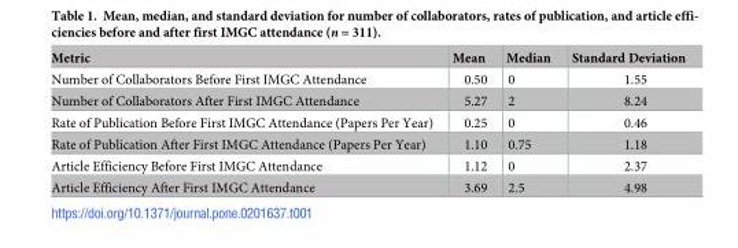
<table><thead><tr><td>Metric</td><td>Mean</td><td>Median</td><td>Standard Deviation</td></tr></thead><tbody><tr><td>Number of Collaborators Before First IMGC Attendance</td><td>0.50</td><td>0</td><td>1.55</td></tr><tr><td>Number of Collaborators After First IMGC Attendance</td><td>5.27</td><td>2</td><td>8.24</td></tr><tr><td>Rate of Publication Before First IMGC Attendance (Papers Per Year)</td><td>0.25</td><td>0</td><td>0.46</td></tr><tr><td>Rate of Publication After First IMGC Attendance (Papers Per Year)</td><td>1.10</td><td>0.75</td><td>1.18</td></tr><tr><td>Article Efficiency Before First IMGC Attendance</td><td>1.12</td><td>0</td><td>2.37</td></tr><tr><td>Article Efficiency After First IMGC Attendance</td><td>3.69</td><td>2.5</td><td>4.98</td></tr></tbody></table>